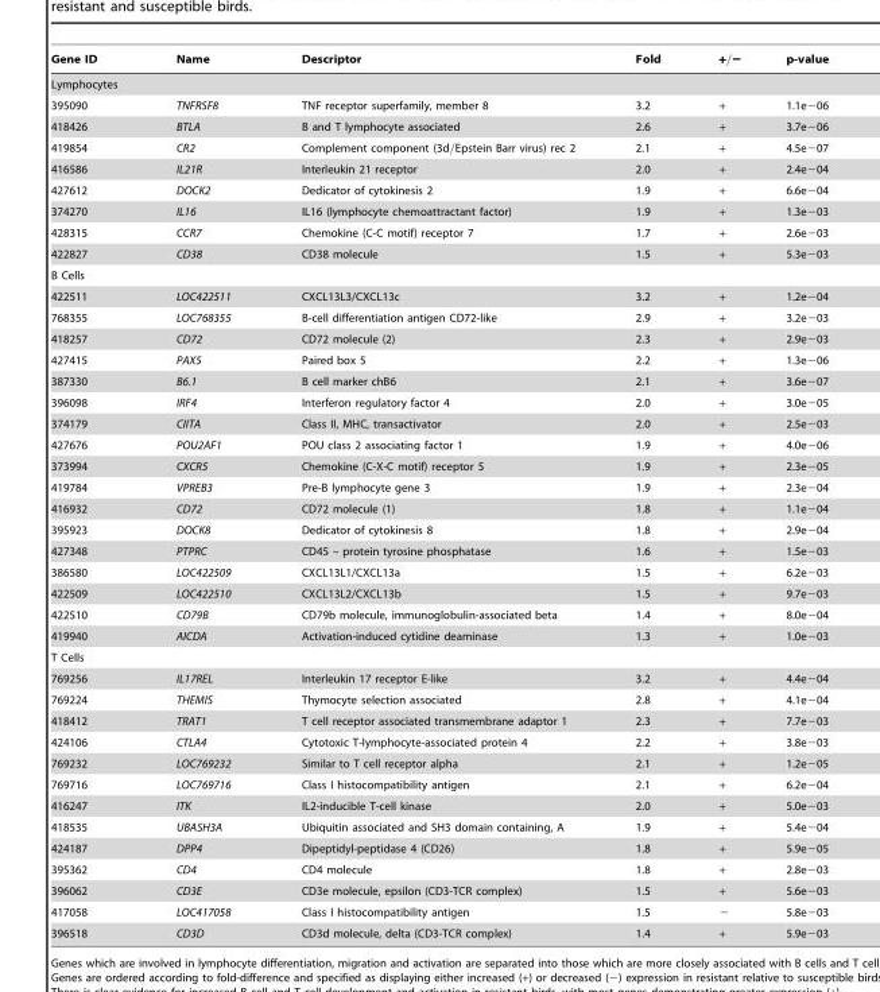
<table><thead><tr><td>Gene ID</td><td>Name</td><td>Descriptor</td><td>Fold</td><td>+=2</td><td>p-value</td></tr></thead><tbody><tr><td colspan="6">Lymphocytes</td></tr><tr><td>395090</td><td>TNFRSF8</td><td>TNF receptor superfamily, member 8</td><td>3.2</td><td>+</td><td>1.1e−06</td></tr><tr><td>418426</td><td>BTLA</td><td>B and T lymphocyte associated</td><td>2.6</td><td>+</td><td>3.7e−06</td></tr><tr><td>419854</td><td>CR2</td><td>Complement component (3d=Epstein Barr virus) rec 2</td><td>2.1</td><td>+</td><td>4.5e−07</td></tr><tr><td>416586</td><td>IL21R</td><td>Interleukin 21 receptor</td><td>2.0</td><td>+</td><td>2.4e−04</td></tr><tr><td>427612</td><td>DOCK2</td><td>Dedicator of cytokinesis 2</td><td>1.9</td><td>+</td><td>6.6e−04</td></tr><tr><td>374270</td><td>IL16</td><td>IL16 (lymphocyte chemoattractant factor)</td><td>1.9</td><td>+</td><td>1.3e−03</td></tr><tr><td>428315</td><td>CCR7</td><td>Chemokine (C-C motif) receptor 7</td><td>1.7</td><td>+</td><td>2.6e−03</td></tr><tr><td>422827</td><td>CD38</td><td>CD38 molecule</td><td>1.5</td><td>+</td><td>5.3e−03</td></tr><tr><td colspan="6">B Cells</td></tr><tr><td>422511</td><td>LOC422511</td><td>CXCL13L3/CXCL13c</td><td>3.2</td><td>+</td><td>1.2e−04</td></tr><tr><td>768355</td><td>LOC768355</td><td>B-cell differentiation antigen CD72-like</td><td>2.9</td><td>+</td><td>3.2e−03</td></tr><tr><td>418257</td><td>CD72</td><td>CD72 molecule (2)</td><td>2.3</td><td>+</td><td>2.9e−03</td></tr><tr><td>427415</td><td>PAX5</td><td>Paired box 5</td><td>2.2</td><td>+</td><td>1.3e−06</td></tr><tr><td>387330</td><td>B6.1</td><td>B cell marker chB6</td><td>2.1</td><td>+</td><td>3.6e−07</td></tr><tr><td>396098</td><td>IRF4</td><td>Interferon regulatory factor 4</td><td>2.0</td><td>+</td><td>3.0e−05</td></tr><tr><td>374179</td><td>CIITA</td><td>Class II, MHC, transactivator</td><td>2.0</td><td>+</td><td>2.5e−03</td></tr><tr><td>427676</td><td>POU2AF1</td><td>POU class 2 associating factor 1</td><td>1.9</td><td>+</td><td>4.0e−06</td></tr><tr><td>373994</td><td>CXCR5</td><td>Chemokine (C-X-C motif) receptor 5</td><td>1.9</td><td>+</td><td>2.3e−05</td></tr><tr><td>419784</td><td>VPREB3</td><td>Pre-B lymphocyte gene 3</td><td>1.9</td><td>+</td><td>2.3e−04</td></tr><tr><td>416932</td><td>CD72</td><td>CD72 molecule (1)</td><td>1.8</td><td>+</td><td>1.1e−04</td></tr><tr><td>395923</td><td>DOCK8</td><td>Dedicator of cytokinesis 8</td><td>1.8</td><td>+</td><td>2.9e−04</td></tr><tr><td>427348</td><td>PTPRC</td><td>CD45 – protein tyrosine phosphatase</td><td>1.6</td><td>+</td><td>1.5e−03</td></tr><tr><td>386580</td><td>LOC422509</td><td>CXCL13L1/CXCL13a</td><td>1.5</td><td>+</td><td>6.2e−03</td></tr><tr><td>422509</td><td>LOC422510</td><td>CXCL13L2/CXCL13b</td><td>1.5</td><td>+</td><td>9.7e−03</td></tr><tr><td>422510</td><td>CD79B</td><td>CD79b molecule, immunoglobulin-associated beta</td><td>1.4</td><td>+</td><td>8.0e−04</td></tr><tr><td>419940</td><td>AICDA</td><td>Activation-induced cytidine deaminase</td><td>1.3</td><td>+</td><td>1.0e−03</td></tr><tr><td colspan="6">T Cells</td></tr><tr><td>769256</td><td>IL17REL</td><td>Interleukin 17 receptor E-like</td><td>3.2</td><td>+</td><td>4.4e−04</td></tr><tr><td>769224</td><td>THEMIS</td><td>Thymocyte selection associated</td><td>2.8</td><td>+</td><td>4.1e−04</td></tr><tr><td>418412</td><td>TRAT1</td><td>T cell receptor associated transmembrane adaptor 1</td><td>2.3</td><td>+</td><td>7.7e−03</td></tr><tr><td>424106</td><td>CTLA4</td><td>Cytotoxic T-lymphocyte-associated protein 4</td><td>2.2</td><td>+</td><td>3.8e−03</td></tr><tr><td>769232</td><td>LOC769232</td><td>Similar to T cell receptor alpha</td><td>2.1</td><td>+</td><td>1.2e−05</td></tr><tr><td>769716</td><td>LOC769716</td><td>Class I histocompatibility antigen</td><td>2.1</td><td>+</td><td>6.2e−04</td></tr><tr><td>416247</td><td>ITK</td><td>IL2-inducible T-cell kinase</td><td>2.0</td><td>+</td><td>5.0e−03</td></tr><tr><td>418535</td><td>UBASH3A</td><td>Ubiquitin associated and SH3 domain containing, A</td><td>1.9</td><td>+</td><td>5.4e−04</td></tr><tr><td>424187</td><td>DPP4</td><td>Dipeptidyl-peptidase 4 (CD26)</td><td>1.8</td><td>+</td><td>5.9e−05</td></tr><tr><td>395362</td><td>CD4</td><td>CD4 molecule</td><td>1.8</td><td>+</td><td>2.8e−03</td></tr><tr><td>396062</td><td>CD3E</td><td>CD3e molecule, epsilon (CD3-TCR complex)</td><td>1.5</td><td>+</td><td>5.6e−03</td></tr><tr><td>417058</td><td>LOC417058</td><td>Class I histocompatibility antigen</td><td>1.5</td><td>−</td><td>5.8e−03</td></tr><tr><td>396518</td><td>CD3D</td><td>CD3d molecule, delta (CD3-TCR complex)</td><td>1.4</td><td>+</td><td>5.9e−03</td></tr></tbody></table>